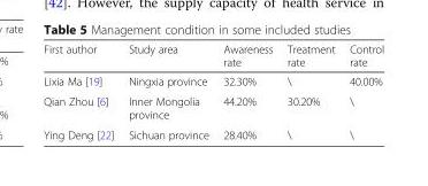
<table><thead><tr><td>First author</td><td>Study area</td><td>Awareness rate</td><td>Treatment rate</td><td>Control rate</td></tr></thead><tbody><tr><td>Lixia Ma [19]</td><td>Ningxia province</td><td>32.30%</td><td>\</td><td>40.00%</td></tr><tr><td>Qian Zhou [6]</td><td>Inner Mongolia province</td><td>44.20%</td><td>30.20%</td><td>\</td></tr><tr><td>Ying Deng [22]</td><td>Sichuan province</td><td>28.40%</td><td>\</td><td>\</td></tr></tbody></table>